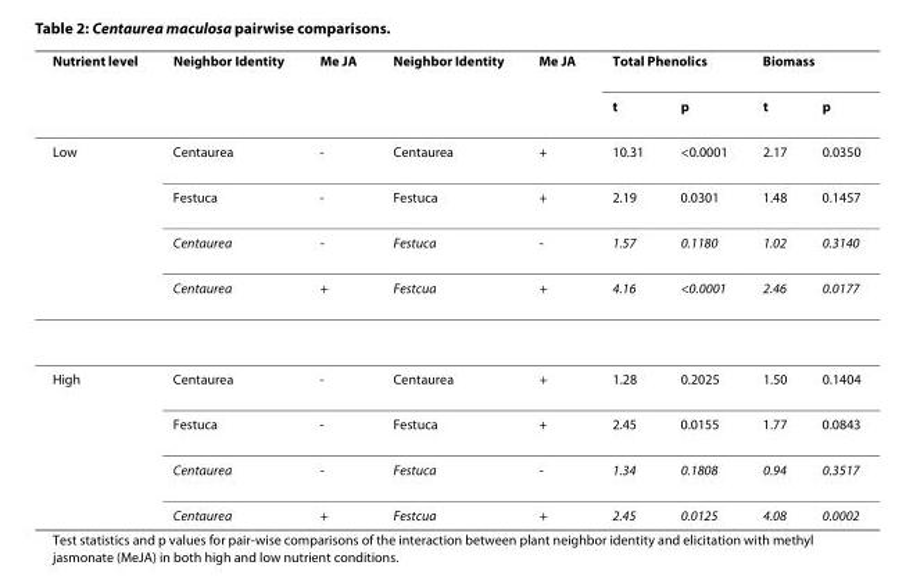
<table><thead><tr><td rowspan="2">Nutrient level</td><td rowspan="2">Neighbor Identity</td><td rowspan="2">Me JA</td><td rowspan="2">Neighbor Identity</td><td rowspan="2">Me JA</td><td colspan="2">Total Phenolics</td><td colspan="2">Biomass</td></tr><tr><td>t</td><td>p</td><td>t</td><td>p</td></tr></thead><tbody><tr><td rowspan="4">Low</td><td>Centaurea</td><td>-</td><td>Centaurea</td><td>+</td><td>10.31</td><td>&lt;0.0001</td><td>2.17</td><td>0.0350</td></tr><tr><td>Festuca</td><td>-</td><td>Festuca</td><td>+</td><td>2.19</td><td>0.0301</td><td>1.48</td><td>0.1457</td></tr><tr><td>Centaurea</td><td>-</td><td>Festuca</td><td>-</td><td>1.57</td><td>0.1180</td><td>1.02</td><td>0.3140</td></tr><tr><td>Centaurea</td><td>+</td><td>Festcua</td><td>+</td><td>4.16</td><td>&lt;0.0001</td><td>2.46</td><td>0.0177</td></tr><tr><td rowspan="4">High</td><td>Centaurea</td><td>-</td><td>Centaurea</td><td>+</td><td>1.28</td><td>0.2025</td><td>1.50</td><td>0.1404</td></tr><tr><td>Festuca</td><td>-</td><td>Festuca</td><td>+</td><td>2.45</td><td>0.0155</td><td>1.77</td><td>0.0843</td></tr><tr><td>Centaurea</td><td>-</td><td>Festuca</td><td>-</td><td>1.34</td><td>0.1808</td><td>0.94</td><td>0.3517</td></tr><tr><td>Centaurea</td><td>+</td><td>Festcua</td><td>+</td><td>2.45</td><td>0.0125</td><td>4.08</td><td>0.0002</td></tr></tbody></table>